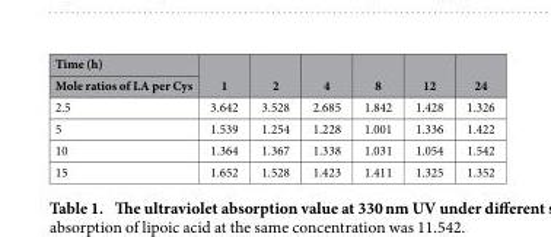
<table><thead><tr><td rowspan="2">Time (h) Mole ratios of LA per Cys</td><td rowspan="2">1</td><td rowspan="2">2</td><td rowspan="2">4</td><td rowspan="2">8</td><td rowspan="2">12</td><td rowspan="2">24</td></tr><tr></tr></thead><tbody><tr><td>2.5</td><td>3.642</td><td>3.528</td><td>2.685</td><td>1.842</td><td>1.428</td><td>1.326</td></tr><tr><td>5</td><td>1.539</td><td>1.254</td><td>1.228</td><td>1.001</td><td>1.336</td><td>1.422</td></tr><tr><td>10</td><td>1.364</td><td>1.367</td><td>1.338</td><td>1.031</td><td>1.054</td><td>1.542</td></tr><tr><td>15</td><td>1.652</td><td>1.528</td><td>1.423</td><td>1.411</td><td>1.325</td><td>1.352</td></tr></tbody></table>